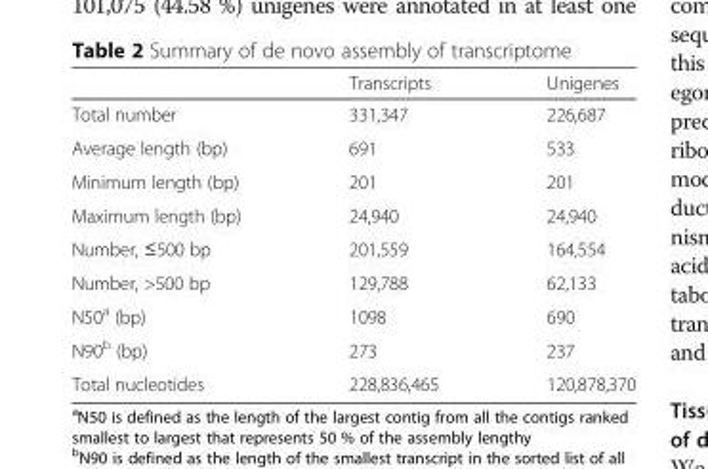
<table><thead><tr><td></td><td>Transcripts</td><td>Unigenes</td></tr></thead><tbody><tr><td>Total number</td><td>331,347</td><td>226,687</td></tr><tr><td>Average length (bp)</td><td>691</td><td>533</td></tr><tr><td>Minimum length (bp)</td><td>201</td><td>201</td></tr><tr><td>Maximum length (bp)</td><td>24,940</td><td>24,940</td></tr><tr><td>Number, ≤500 bp</td><td>201,559</td><td>164,554</td></tr><tr><td>Number, &gt;500 bp</td><td>129,788</td><td>62,133</td></tr><tr><td>N50<sup>a</sup> (bp)</td><td>1098</td><td>690</td></tr><tr><td>N90<sup>b</sup> (bp)</td><td>273</td><td>237</td></tr><tr><td>Total nucleotides</td><td>228,836,465</td><td>120,878,370</td></tr></tbody></table>